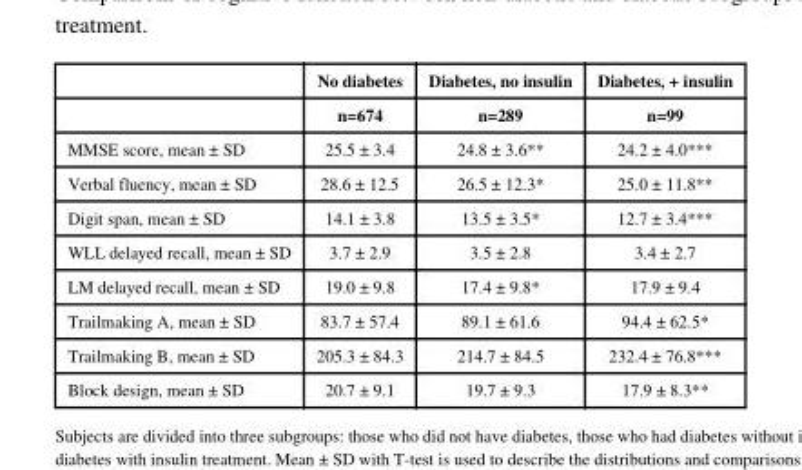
<table><thead><tr><td rowspan="2"></td><td rowspan="2">No diabetes n=674</td><td rowspan="2">Diabetes, no insulin n=289</td><td rowspan="2">Diabetes, + insulin n=99</td></tr><tr></tr></thead><tbody><tr><td>MMSE score, mean ± SD</td><td>25.5 ± 3.4</td><td>24.8 ± 3.6**</td><td>24.2 ± 4.0***</td></tr><tr><td>Verbal fluency, mean ± SD</td><td>28.6 ± 12.5</td><td>26.5 ± 12.3*</td><td>25.0 ± 11.8**</td></tr><tr><td>Digit span, mean ± SD</td><td>14.1 ± 3.8</td><td>13.5 ± 3.5*</td><td>12.7 ± 3.4***</td></tr><tr><td>WLL delayed recall, mean ± SD</td><td>3.7 ± 2.9</td><td>3.5 ± 2.8</td><td>3.4 ± 2.7</td></tr><tr><td>LM delayed recall, mean ± SD</td><td>19.0 ± 9.8</td><td>17.4 ± 9.8*</td><td>17.9 ± 9.4</td></tr><tr><td>Trailmaking A, mean ± SD</td><td>83.7 ± 57.4</td><td>89.1 ± 61.6</td><td>94.4 ± 62.5*</td></tr><tr><td>Trailmaking B, mean ± SD</td><td>205.3 ± 84.3</td><td>214.7 ± 84.5</td><td>232.4 ± 76.8***</td></tr><tr><td>Block design, mean ± SD</td><td>20.7 ± 9.1</td><td>19.7 ± 9.3</td><td>17.9 ± 8.3**</td></tr></tbody></table>